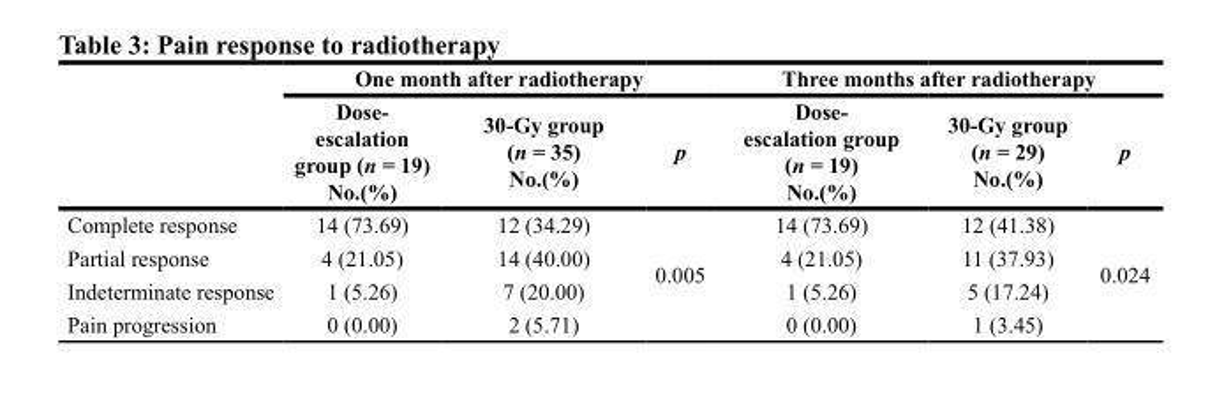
<table><thead><tr><td rowspan="2"></td><td colspan="3">One month after radiotherapy</td><td colspan="3">Three months after radiotherapy</td></tr><tr><td>Dose- escalation group (n = 19) No.(%)</td><td>30-Gy group (n = 35) No.(%)</td><td>p</td><td>Dose- escalation group (n = 19) No.(%)</td><td>30-Gy group (n = 29) No.(%)</td><td>p</td></tr></thead><tbody><tr><td>Complete response</td><td>14 (73.69)</td><td>12 (34.29)</td><td rowspan="4">0.005</td><td>14 (73.69)</td><td>12 (41.38)</td><td rowspan="4">0.024</td></tr><tr><td>Partial response</td><td>4 (21.05)</td><td>14 (40.00)</td><td>4 (21.05)</td><td>11 (37.93)</td></tr><tr><td>Indeterminate response</td><td>1 (5.26)</td><td>7 (20.00)</td><td>1 (5.26)</td><td>5 (17.24)</td></tr><tr><td>Pain progression</td><td>0 (0.00)</td><td>2 (5.71)</td><td>0 (0.00)</td><td>1 (3.45)</td></tr></tbody></table>